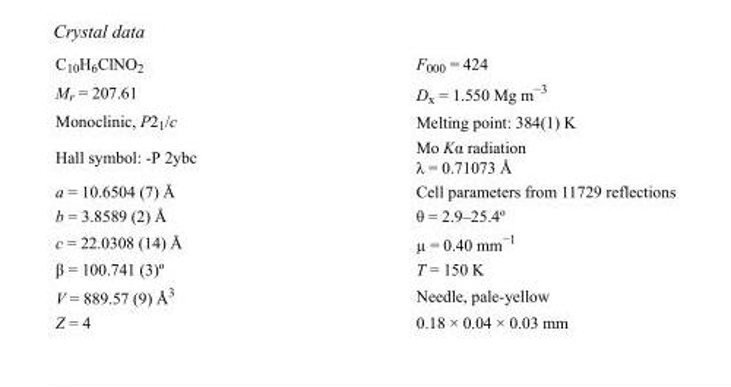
<table><tbody><tr><td>C<sub>10</sub>H<sub>6</sub>ClNO<sub>2</sub></td><td>F000 = 424</td></tr><tr><td>M<sub>r</sub> = 207.61</td><td>D<sub>x</sub> = 1.550 Mg m<sup>−3</sup></td></tr><tr><td>Monoclinic, P2<sub>1</sub>/c</td><td>Melting point: 384(1) K</td></tr><tr><td>Hall symbol: -P 2ybc</td><td>Mo Kα radiation λ = 0.71073 Å</td></tr><tr><td>a = 10.6504 (7) Å</td><td>Cell parameters from 11729 reflections</td></tr><tr><td>b = 3.8589 (2) Å</td><td>θ = 2.9–25.4º</td></tr><tr><td>c = 22.0308 (14) Å</td><td>µ = 0.40 mm<sup>−1</sup></td></tr><tr><td>β = 100.741 (3)º</td><td>T = 150 K</td></tr><tr><td>V = 889.57 (9) Å<sup>3</sup></td><td>Needle, pale-yellow</td></tr><tr><td>Z = 4</td><td>0.18 × 0.04 × 0.03 mm</td></tr></tbody></table>